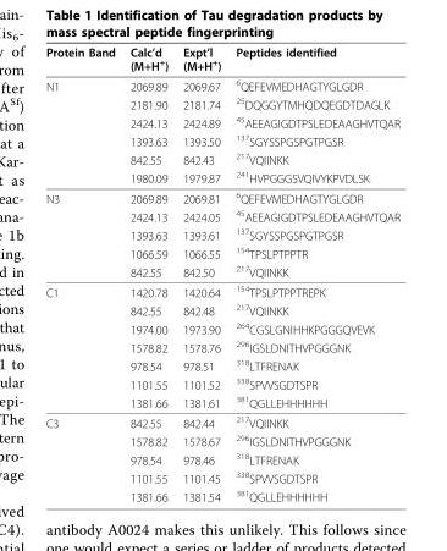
<table><thead><tr><td>Protein Band</td><td>Calc’d (M+H<sup>+</sup>)</td><td>Expt’l (M+H<sup>+</sup>)</td><td>Peptides identified</td></tr></thead><tbody><tr><td rowspan="6">N1</td><td>2069.89</td><td>2069.67</td><td><sup>6</sup>QEFEVMEDHAGTYGLGDR</td></tr><tr><td>2181.90</td><td>2181.74</td><td><sup>25</sup>DQGGYTMHQDQEGDTDAGLK</td></tr><tr><td>2424.13</td><td>2424.89</td><td><sup>45</sup>AEEAGIGDTPSLEDEAAGHVTQAR</td></tr><tr><td>1393.63</td><td>1393.50</td><td><sup>137</sup>SGYSSPGSPGTPGSR</td></tr><tr><td>842.55</td><td>842.43</td><td><sup>217</sup>VQIINKK</td></tr><tr><td>1980.09</td><td>1979.87</td><td><sup>241</sup>HVPGGGSVQIVYKPVDLSK</td></tr><tr><td rowspan="5">N3</td><td>2069.89</td><td>2069.81</td><td><sup>6</sup>QEFEVMEDHAGTYGLGDR</td></tr><tr><td>2424.13</td><td>2424.05</td><td><sup>45</sup>AEEAGIGDTPSLEDEAAGHVTQAR</td></tr><tr><td>1393.63</td><td>1393.61</td><td><sup>137</sup>SGYSSPGSPGTPGSR</td></tr><tr><td>1066.59</td><td>1066.55</td><td><sup>154</sup>TPSLPTPPTR</td></tr><tr><td>842.55</td><td>842.50</td><td><sup>217</sup>VQIINKK</td></tr><tr><td rowspan="7">C1</td><td>1420.78</td><td>1420.64</td><td><sup>154</sup>TPSLPTPPTREPK</td></tr><tr><td>842.55</td><td>842.48</td><td><sup>217</sup>VQIINKK</td></tr><tr><td>1974.00</td><td>1973.90</td><td><sup>264</sup>CGSLGNIHHKPGGGQVEVK</td></tr><tr><td>1578.82</td><td>1578.76</td><td><sup>296</sup>IGSLDNITHVPGGGNK</td></tr><tr><td>978.54</td><td>978.51</td><td><sup>318</sup>LTFRENAK</td></tr><tr><td>1101.55</td><td>1101.52</td><td><sup>338</sup>SPVVSGDTSPR</td></tr><tr><td>1381.66</td><td>1381.61</td><td><sup>381</sup>QGLLEHHHHHH</td></tr><tr><td rowspan="5">C3</td><td>842.55</td><td>842.44</td><td><sup>217</sup>VQIINKK</td></tr><tr><td>1578.82</td><td>1578.67</td><td><sup>296</sup>IGSLDNITHVPGGGNK</td></tr><tr><td>978.54</td><td>978.46</td><td><sup>318</sup>LTFRENAK</td></tr><tr><td>1101.55</td><td>1101.45</td><td><sup>338</sup>SPVVSGDTSPR</td></tr><tr><td>1381.66</td><td>1381.54</td><td><sup>381</sup>QGLLEHHHHHH</td></tr></tbody></table>